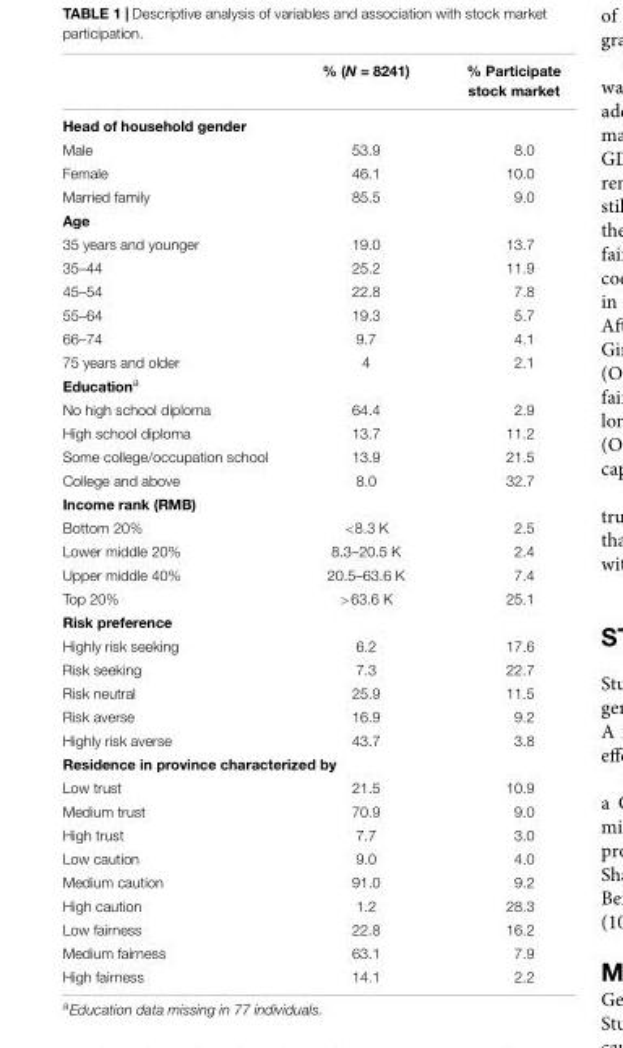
<table><thead><tr><td></td><td>% (N = 8241)</td><td>% Participate stock market</td></tr></thead><tbody><tr><td colspan="3">Head of household gender</td></tr><tr><td>Male</td><td>53.9</td><td>8.0</td></tr><tr><td>Female</td><td>46.1</td><td>10.0</td></tr><tr><td>Married family</td><td>85.5</td><td>9.0</td></tr><tr><td colspan="3">Age</td></tr><tr><td>35 years and younger</td><td>19.0</td><td>13.7</td></tr><tr><td>35–44</td><td>25.2</td><td>11.9</td></tr><tr><td>45–54</td><td>22.8</td><td>7.8</td></tr><tr><td>55–64</td><td>19.3</td><td>5.7</td></tr><tr><td>66–74</td><td>9.7</td><td>4.1</td></tr><tr><td>75 years and older</td><td>4</td><td>2.1</td></tr><tr><td colspan="3">Education<sup>a</sup></td></tr><tr><td>No high school diploma</td><td>64.4</td><td>2.9</td></tr><tr><td>High school diploma</td><td>13.7</td><td>11.2</td></tr><tr><td>Some college/occupation school</td><td>13.9</td><td>21.5</td></tr><tr><td>College and above</td><td>8.0</td><td>32.7</td></tr><tr><td colspan="3">Income rank (RMB)</td></tr><tr><td>Bottom 20%</td><td>&lt;8.3 K</td><td>2.5</td></tr><tr><td>Lower middle 20%</td><td>8.3–20.5 K</td><td>2.4</td></tr><tr><td>Upper middle 40%</td><td>20.5–63.6 K</td><td>7.4</td></tr><tr><td>Top 20%</td><td>&gt;63.6 K</td><td>25.1</td></tr><tr><td colspan="3">Risk preference</td></tr><tr><td>Highly risk seeking</td><td>6.2</td><td>17.6</td></tr><tr><td>Risk seeking</td><td>7.3</td><td>22.7</td></tr><tr><td>Risk neutral</td><td>25.9</td><td>11.5</td></tr><tr><td>Risk averse</td><td>16.9</td><td>9.2</td></tr><tr><td>Highly risk averse</td><td>43.7</td><td>3.8</td></tr><tr><td colspan="3">Residence in province characterized by</td></tr><tr><td>Low trust</td><td>21.5</td><td>10.9</td></tr><tr><td>Medium trust</td><td>70.9</td><td>9.0</td></tr><tr><td>High trust</td><td>7.7</td><td>3.0</td></tr><tr><td>Low caution</td><td>9.0</td><td>4.0</td></tr><tr><td>Medium caution</td><td>91.0</td><td>9.2</td></tr><tr><td>High caution</td><td>1.2</td><td>28.3</td></tr><tr><td>Low fairness</td><td>22.8</td><td>16.2</td></tr><tr><td>Medium fairness</td><td>63.1</td><td>7.9</td></tr><tr><td>High fairness</td><td>14.1</td><td>2.2</td></tr></tbody></table>